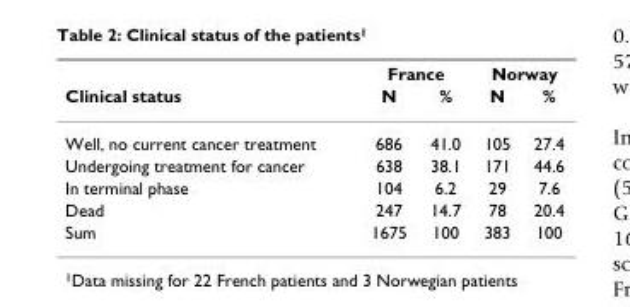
<table><thead><tr><td rowspan="2">Clinical status</td><td colspan="2">France</td><td colspan="2">Norway</td></tr><tr><td>N</td><td>%</td><td>N</td><td>%</td></tr></thead><tbody><tr><td>Well, no current cancer treatment</td><td>686</td><td>41.0</td><td>105</td><td>27.4</td></tr><tr><td>Undergoing treatment for cancer</td><td>638</td><td>38.1</td><td>171</td><td>44.6</td></tr><tr><td>In terminal phase</td><td>104</td><td>6.2</td><td>29</td><td>7.6</td></tr><tr><td>Dead</td><td>247</td><td>14.7</td><td>78</td><td>20.4</td></tr><tr><td>Sum</td><td>1675</td><td>100</td><td>383</td><td>100</td></tr></tbody></table>